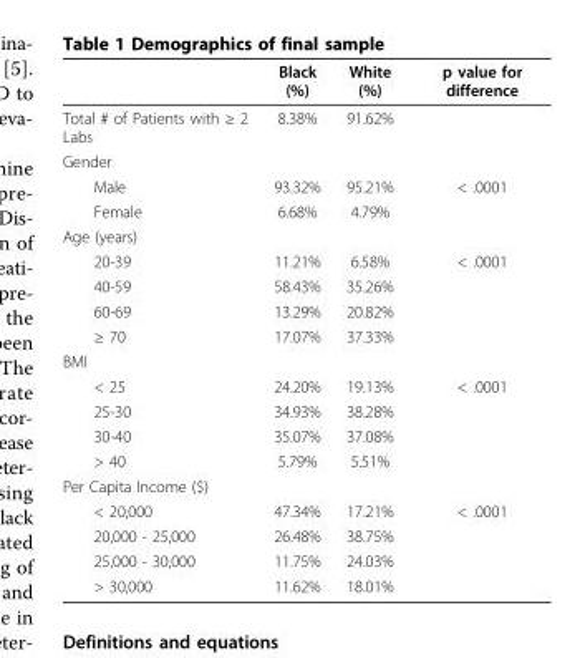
<table><thead><tr><td></td><td>Black (%)</td><td>White (%)</td><td>p value for difference</td></tr></thead><tbody><tr><td>Total # of Patients with ≥ 2 Labs</td><td>8.38%</td><td>91.62%</td><td></td></tr><tr><td colspan="4">Gender</td></tr><tr><td>Male</td><td>93.32%</td><td>95.21%</td><td>&lt; .0001</td></tr><tr><td>Female</td><td>6.68%</td><td>4.79%</td><td></td></tr><tr><td colspan="4">Age (years)</td></tr><tr><td>20-39</td><td>11.21%</td><td>6.58%</td><td>&lt; .0001</td></tr><tr><td>40-59</td><td>58.43%</td><td>35.26%</td><td></td></tr><tr><td>60-69</td><td>13.29%</td><td>20.82%</td><td></td></tr><tr><td>≥ 70</td><td>17.07%</td><td>37.33%</td><td></td></tr><tr><td colspan="4">BMI</td></tr><tr><td>&lt; 25</td><td>24.20%</td><td>19.13%</td><td>&lt; .0001</td></tr><tr><td>25-30</td><td>34.93%</td><td>38.28%</td><td></td></tr><tr><td>30-40</td><td>35.07%</td><td>37.08%</td><td></td></tr><tr><td>&gt; 40</td><td>5.79%</td><td>5.51%</td><td></td></tr><tr><td colspan="4">Per Capita Income ($)</td></tr><tr><td>&lt; 20,000</td><td>47.34%</td><td>17.21%</td><td>&lt; .0001</td></tr><tr><td>20,000 - 25,000</td><td>26.48%</td><td>38.75%</td><td></td></tr><tr><td>25,000 - 30,000</td><td>11.75%</td><td>24.03%</td><td></td></tr><tr><td>&gt; 30,000</td><td>11.62%</td><td>18.01%</td><td></td></tr></tbody></table>